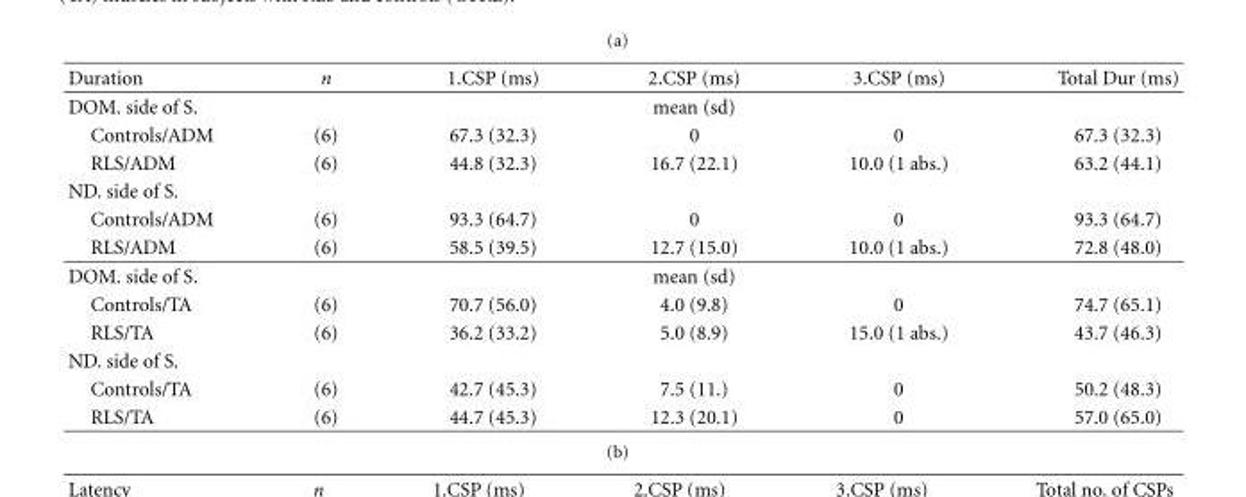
<table><thead><tr><td>Duration</td><td>n</td><td>1.CSP (ms)</td><td>2.CSP (ms)</td><td>3.CSP (ms)</td><td>Total Dur (ms)</td></tr></thead><tbody><tr><td>DOM. side of S.</td><td></td><td></td><td>mean (sd)</td><td></td><td></td></tr><tr><td>Controls/ADM</td><td>(6)</td><td>67.3 (32.3)</td><td>0</td><td>0</td><td>67.3 (32.3)</td></tr><tr><td>RLS/ADM</td><td>(6)</td><td>44.8 (32.3)</td><td>16.7 (22.1)</td><td>10.0 (1 abs.)</td><td>63.2 (44.1)</td></tr><tr><td colspan="6">ND. side of S.</td></tr><tr><td>Controls/ADM</td><td>(6)</td><td>93.3 (64.7)</td><td>0</td><td>0</td><td>93.3 (64.7)</td></tr><tr><td>RLS/ADM</td><td>(6)</td><td>58.5 (39.5)</td><td>12.7 (15.0)</td><td>10.0 (1 abs.)</td><td>72.8 (48.0)</td></tr><tr><td>DOM. side of S.</td><td></td><td></td><td>mean (sd)</td><td></td><td></td></tr><tr><td>Controls/TA</td><td>(6)</td><td>70.7 (56.0)</td><td>4.0 (9.8)</td><td>0</td><td>74.7 (65.1)</td></tr><tr><td>RLS/TA</td><td>(6)</td><td>36.2 (33.2)</td><td>5.0 (8.9)</td><td>15.0 (1 abs.)</td><td>43.7 (46.3)</td></tr><tr><td colspan="6">ND. side of S.</td></tr><tr><td>Controls/TA</td><td>(6)</td><td>42.7 (45.3)</td><td>7.5 (11.)</td><td>0</td><td>50.2 (48.3)</td></tr><tr><td>RLS/TA</td><td>(6)</td><td>44.7 (45.3)</td><td>12.3 (20.1)</td><td>0</td><td>57.0 (65.0)</td></tr></tbody></table>